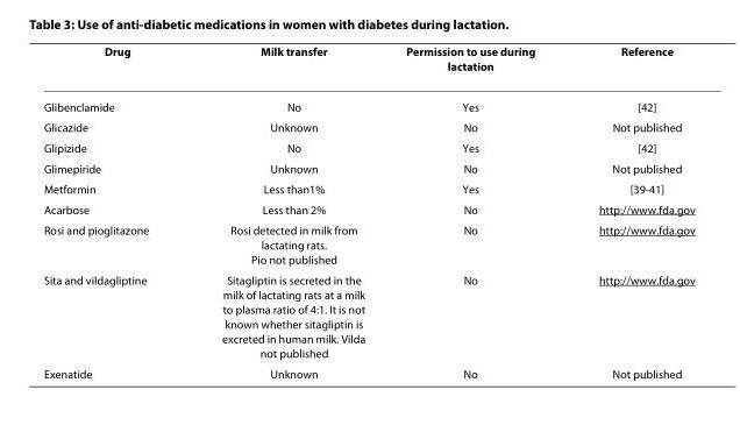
<table><thead><tr><td>Drug</td><td>Milk transfer</td><td>Permission to use during lactation</td><td>Reference</td></tr></thead><tbody><tr><td>Glibenclamide</td><td>No</td><td>Yes</td><td>[42]</td></tr><tr><td>Glicazide</td><td>Unknown</td><td>No</td><td>Not published</td></tr><tr><td>Glipizide</td><td>No</td><td>Yes</td><td>[42]</td></tr><tr><td>Glimepiride</td><td>Unknown</td><td>No</td><td>Not published</td></tr><tr><td>Metformin</td><td>Less than1%</td><td>Yes</td><td>[39-41]</td></tr><tr><td>Acarbose</td><td>Less than 2%</td><td>No</td><td>http://www.fda.gov</td></tr><tr><td>Rosi and pioglitazone</td><td>Rosi detected in milk from lactating rats. Pio not published</td><td>No</td><td>http://www.fda.gov</td></tr><tr><td>Sita and vildagliptine</td><td>Sitagliptin is secreted in the milk of lactating rats at a milk to plasma ratio of 4:1. It is not known whether sitagliptin is excreted in human milk. Vilda not published</td><td>No</td><td>http://www.fda.gov</td></tr><tr><td>Exenatide</td><td>Unknown</td><td>No</td><td>Not published</td></tr></tbody></table>